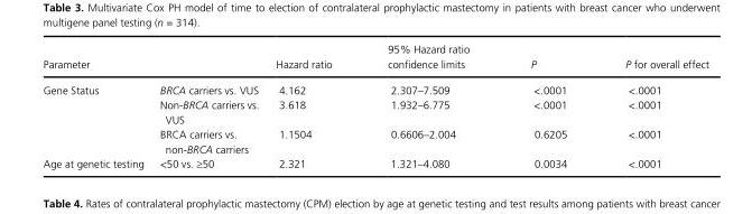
<table><thead><tr><td>Parameter</td><td></td><td>Hazard ratio</td><td>95% Hazard ratio confidence limits</td><td>P</td><td>P for overall effect</td></tr></thead><tbody><tr><td rowspan="3">Gene Status</td><td>BRCA carriers vs. VUS</td><td>4.162</td><td>2.307–7.509</td><td>&lt;.0001</td><td>&lt;.0001</td></tr><tr><td>Non- BRCA carriers vs. VUS</td><td>3.618</td><td>1.932–6.775</td><td>&lt;.0001</td><td>&lt;.0001</td></tr><tr><td>BRCA carriers vs. non- BRCA carriers</td><td>1.1504</td><td>0.6606–2.004</td><td>0.6205</td><td>&lt;.0001</td></tr><tr><td>Age at genetic testing</td><td>&lt;50 vs. ≥50</td><td>2.321</td><td>1.321–4.080</td><td>0.0034</td><td>&lt;.0001</td></tr></tbody></table>